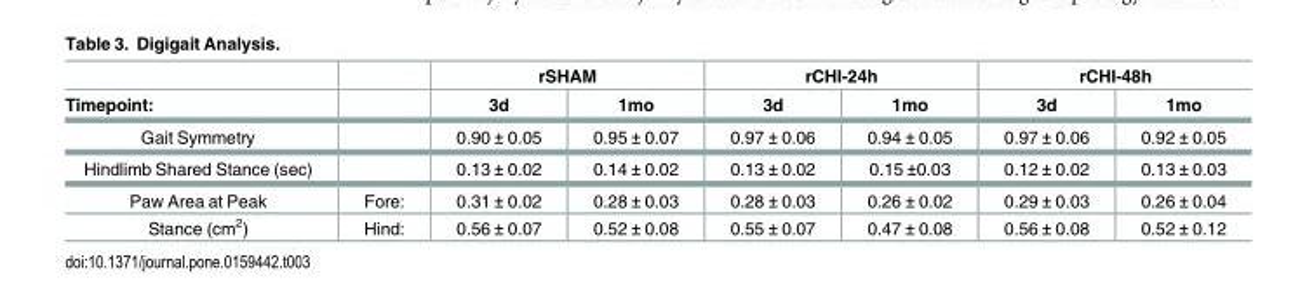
<table><thead><tr><td rowspan="2">Timepoint:</td><td rowspan="2"></td><td colspan="2">rSHAM</td><td colspan="2">rCHI-24h</td><td colspan="2">rCHI-48h</td></tr><tr><td>3d</td><td>1mo</td><td>3d</td><td>1mo</td><td>3d</td><td>1mo</td></tr></thead><tbody><tr><td>Gait Symmetry</td><td></td><td>0.90 ± 0.05</td><td>0.95 ± 0.07</td><td>0.97 ± 0.06</td><td>0.94 ± 0.05</td><td>0.97 ± 0.06</td><td>0.92 ± 0.05</td></tr><tr><td>Hindlimb Shared Stance (sec)</td><td></td><td>0.13 ± 0.02</td><td>0.14 ± 0.02</td><td>0.13 ± 0.02</td><td>0.15 ±0.03</td><td>0.12 ± 0.02</td><td>0.13 ± 0.03</td></tr><tr><td>Paw Area at Peak</td><td>Fore:</td><td>0.31 ± 0.02</td><td>0.28 ± 0.03</td><td>0.28 ± 0.03</td><td>0.26 ± 0.02</td><td>0.29 ± 0.03</td><td>0.26 ± 0.04</td></tr><tr><td>Stance (cm<sup>2</sup>)</td><td>Hind:</td><td>0.56 ± 0.07</td><td>0.52 ± 0.08</td><td>0.55 ± 0.07</td><td>0.47 ± 0.08</td><td>0.56 ± 0.08</td><td>0.52 ± 0.12</td></tr></tbody></table>